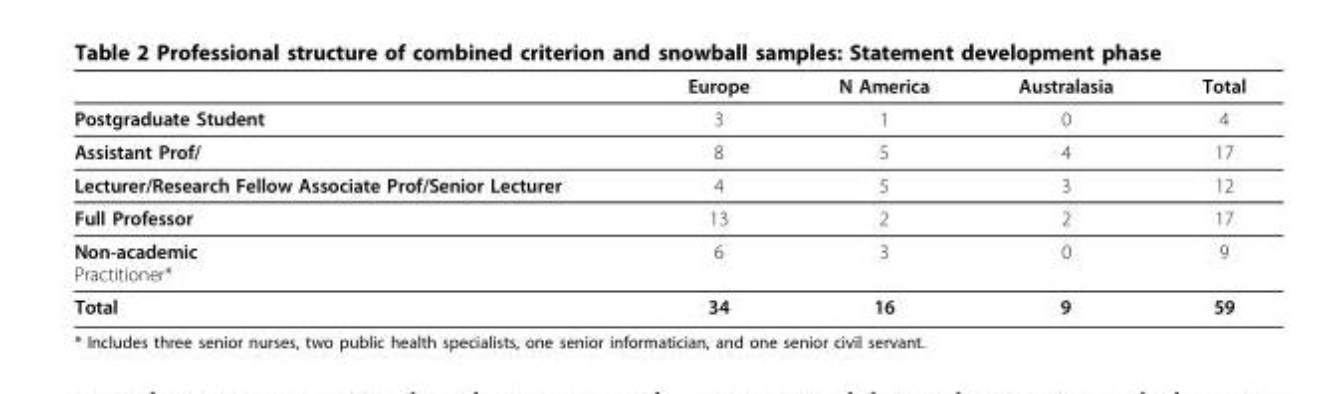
<table><thead><tr><td></td><td>Europe</td><td>N America</td><td>Australasia</td><td>Total</td></tr></thead><tbody><tr><td>Postgraduate Student</td><td>3</td><td>1</td><td>0</td><td>4</td></tr><tr><td>Assistant Prof/</td><td>8</td><td>5</td><td>4</td><td>17</td></tr><tr><td>Lecturer/Research Fellow Associate Prof/Senior Lecturer</td><td>4</td><td>5</td><td>3</td><td>12</td></tr><tr><td>Full Professor</td><td>13</td><td>2</td><td>2</td><td>17</td></tr><tr><td>Non-academic Practitioner*</td><td>6</td><td>3</td><td>0</td><td>9</td></tr><tr><td>Total</td><td>34</td><td>16</td><td>9</td><td>59</td></tr></tbody></table>